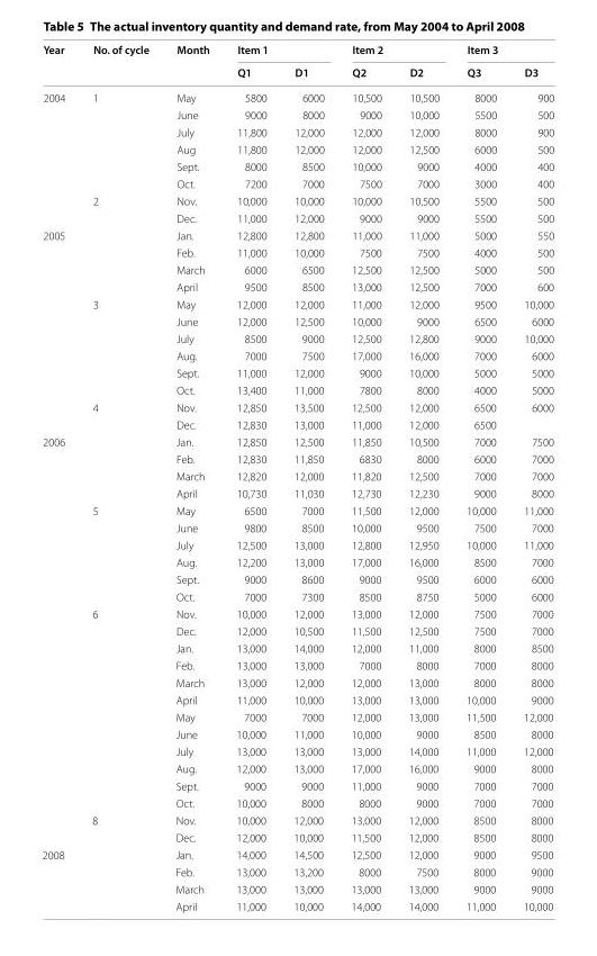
<table><thead><tr><td rowspan="2">Year</td><td rowspan="2">No. of cycle</td><td rowspan="2">Month</td><td colspan="2">Item 1</td><td colspan="2">Item 2</td><td colspan="2">Item 3</td></tr><tr><td>Q1</td><td>D1</td><td>Q2</td><td>D2</td><td>Q3</td><td>D3</td></tr></thead><tbody><tr><td rowspan="8">2004</td><td rowspan="6">1</td><td>May</td><td>5800</td><td>6000</td><td>10,500</td><td>10,500</td><td>8000</td><td>900</td></tr><tr><td>June</td><td>9000</td><td>8000</td><td>9000</td><td>10,000</td><td>5500</td><td>500</td></tr><tr><td>July</td><td>11,800</td><td>12,000</td><td>12,000</td><td>12,000</td><td>8000</td><td>900</td></tr><tr><td>Aug</td><td>11,800</td><td>12,000</td><td>12,000</td><td>12,500</td><td>6000</td><td>500</td></tr><tr><td>Sept.</td><td>8000</td><td>8500</td><td>10,000</td><td>9000</td><td>4000</td><td>400</td></tr><tr><td>Oct.</td><td>7200</td><td>7000</td><td>7500</td><td>7000</td><td>3000</td><td>400</td></tr><tr><td rowspan="2">2</td><td>Nov.</td><td>10,000</td><td>10,000</td><td>10,000</td><td>10,500</td><td>5500</td><td>500</td></tr><tr><td>Dec.</td><td>11,000</td><td>12,000</td><td>9000</td><td>9000</td><td>5500</td><td>500</td></tr><tr><td rowspan="12">2005</td><td></td><td>Jan.</td><td>12,800</td><td>12,800</td><td>11,000</td><td>11,000</td><td>5000</td><td>550</td></tr><tr><td></td><td>Feb.</td><td>11,000</td><td>10,000</td><td>7500</td><td>7500</td><td>4000</td><td>500</td></tr><tr><td></td><td>March</td><td>6000</td><td>6500</td><td>12,500</td><td>12,500</td><td>5000</td><td>500</td></tr><tr><td></td><td>April</td><td>9500</td><td>8500</td><td>13,000</td><td>12,500</td><td>7000</td><td>600</td></tr><tr><td>3</td><td>May</td><td>12,000</td><td>12,000</td><td>11,000</td><td>12,000</td><td>9500</td><td>10,000</td></tr><tr><td></td><td>June</td><td>12,000</td><td>12,500</td><td>10,000</td><td>9000</td><td>6500</td><td>6000</td></tr><tr><td></td><td>July</td><td>8500</td><td>9000</td><td>12,500</td><td>12,800</td><td>9000</td><td>10,000</td></tr><tr><td></td><td>Aug.</td><td>7000</td><td>7500</td><td>17,000</td><td>16,000</td><td>7000</td><td>6000</td></tr><tr><td></td><td>Sept.</td><td>11,000</td><td>12,000</td><td>9000</td><td>10,000</td><td>5000</td><td>5000</td></tr><tr><td></td><td>Oct.</td><td>13,400</td><td>11,000</td><td>7800</td><td>8000</td><td>4000</td><td>5000</td></tr><tr><td rowspan="6">4</td><td>Nov.</td><td>12,850</td><td>13,500</td><td>12,500</td><td>12,000</td><td>6500</td><td>6000</td></tr><tr><td>Dec.</td><td>12,830</td><td>13,000</td><td>11,000</td><td>12,000</td><td>6500</td><td></td></tr><tr><td rowspan="24">2006</td><td>Jan.</td><td>12,850</td><td>12,500</td><td>11,850</td><td>10,500</td><td>7000</td><td>7500</td></tr><tr><td>Feb.</td><td>12,830</td><td>11,850</td><td>6830</td><td>8000</td><td>6000</td><td>7000</td></tr><tr><td>March</td><td>12,820</td><td>12,000</td><td>11,820</td><td>12,500</td><td>7000</td><td>7000</td></tr><tr><td>April</td><td>10,730</td><td>11,030</td><td>12,730</td><td>12,230</td><td>9000</td><td>8000</td></tr><tr><td rowspan="6">5</td><td>May</td><td>6500</td><td>7000</td><td>11,500</td><td>12,000</td><td>10,000</td><td>11,000</td></tr><tr><td>June</td><td>9800</td><td>8500</td><td>10,000</td><td>9500</td><td>7500</td><td>7000</td></tr><tr><td>July</td><td>12,500</td><td>13,000</td><td>12,800</td><td>12,950</td><td>10,000</td><td>11,000</td></tr><tr><td>Aug.</td><td>12,200</td><td>13,000</td><td>17,000</td><td>16,000</td><td>8500</td><td>7000</td></tr><tr><td>Sept.</td><td>9000</td><td>8600</td><td>9000</td><td>9500</td><td>6000</td><td>6000</td></tr><tr><td>Oct.</td><td>7000</td><td>7300</td><td>8500</td><td>8750</td><td>5000</td><td>6000</td></tr><tr><td rowspan="6">6</td><td>Nov.</td><td>10,000</td><td>12,000</td><td>13,000</td><td>12,000</td><td>7500</td><td>7000</td></tr><tr><td>Dec.</td><td>12,000</td><td>10,500</td><td>11,500</td><td>12,500</td><td>7500</td><td>7000</td></tr><tr><td>Jan.</td><td>13,000</td><td>14,000</td><td>12,000</td><td>11,000</td><td>8000</td><td>8500</td></tr><tr><td>Feb.</td><td>13,000</td><td>13,000</td><td>7000</td><td>8000</td><td>7000</td><td>8000</td></tr><tr><td>March</td><td>13,000</td><td>12,000</td><td>12,000</td><td>13,000</td><td>8000</td><td>8000</td></tr><tr><td>April</td><td>11,000</td><td>10,000</td><td>13,000</td><td>13,000</td><td>10,000</td><td>9000</td></tr><tr><td rowspan="6"></td><td>May</td><td>7000</td><td>7000</td><td>12,000</td><td>13,000</td><td>11,500</td><td>12,000</td></tr><tr><td>June</td><td>10,000</td><td>11,000</td><td>10,000</td><td>9000</td><td>8500</td><td>8000</td></tr><tr><td>July</td><td>13,000</td><td>13,000</td><td>13,000</td><td>14,000</td><td>11,000</td><td>12,000</td></tr><tr><td>Aug.</td><td>12,000</td><td>13,000</td><td>17,000</td><td>16,000</td><td>9000</td><td>8000</td></tr><tr><td>Sept.</td><td>9000</td><td>9000</td><td>11,000</td><td>9000</td><td>7000</td><td>7000</td></tr><tr><td>Oct.</td><td>10,000</td><td>8000</td><td>8000</td><td>9000</td><td>7000</td><td>7000</td></tr><tr><td rowspan="6">8</td><td>Nov.</td><td>10,000</td><td>12,000</td><td>13,000</td><td>12,000</td><td>8500</td><td>8000</td></tr><tr><td>Dec.</td><td>12,000</td><td>10,000</td><td>11,500</td><td>12,000</td><td>8500</td><td>8000</td></tr><tr><td rowspan="4">2008</td><td>Jan.</td><td>14,000</td><td>14,500</td><td>12,500</td><td>12,000</td><td>9000</td><td>9500</td></tr><tr><td>Feb.</td><td>13,000</td><td>13,200</td><td>8000</td><td>7500</td><td>8000</td><td>9000</td></tr><tr><td>March</td><td>13,000</td><td>13,000</td><td>13,000</td><td>13,000</td><td>9000</td><td>9000</td></tr><tr><td>April</td><td>11,000</td><td>10,000</td><td>14,000</td><td>14,000</td><td>11,000</td><td>10,000</td></tr></tbody></table>